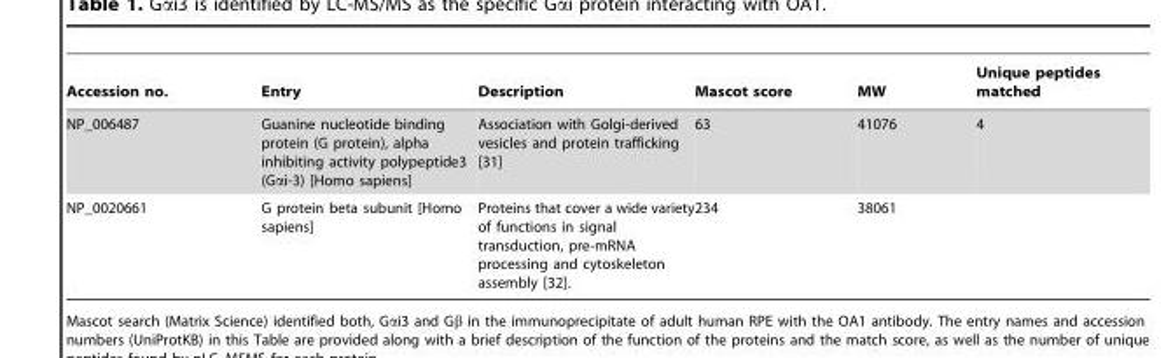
<table><thead><tr><td>Accession no.</td><td>Entry</td><td>Description</td><td>Mascot score</td><td>MW</td><td>Unique peptides matched</td></tr></thead><tbody><tr><td>NP_006487</td><td>Guanine nucleotide binding protein (G protein), alpha inhibiting activity polypeptide3 (Gαi-3) [Homo sapiens]</td><td>Association with Golgi-derived vesicles and protein trafficking [31]</td><td>63</td><td>41076</td><td>4</td></tr><tr><td>NP_0020661</td><td>G protein beta subunit [Homo sapiens]</td><td>Proteins that cover a wide variety of functions in signal transduction, pre-mRNA processing and cytoskeleton assembly [32].</td><td>234</td><td>38061</td><td></td></tr></tbody></table>